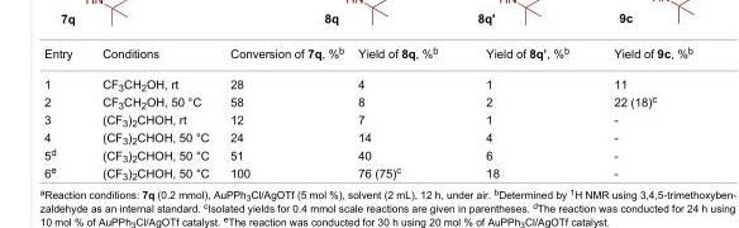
<table><tbody><tr><td>Entry</td><td>Conditions</td><td>Conversion of 7q, %<sup>b</sup></td><td>Yield of 8q, %<sup>b</sup></td><td>Yield of 8q’, %<sup>b</sup></td><td>Yield of 9c, %<sup>b</sup></td></tr><tr><td>1</td><td>CF<sub>3</sub>CH<sub>2</sub>OH, rt</td><td>28</td><td>4</td><td>1</td><td>11</td></tr><tr><td>2</td><td>CF<sub>3</sub>CH<sub>2</sub>OH, 50 °C</td><td>58</td><td>8</td><td>2</td><td>22 (18)<sup>c</sup></td></tr><tr><td>3</td><td>(CF<sub>3</sub>)<sub>2</sub>CHOH, rt</td><td>12</td><td>7</td><td>1</td><td>-</td></tr><tr><td>4</td><td>(CF<sub>3</sub>)<sub>2</sub>CHOH, 50 °C</td><td>24</td><td>14</td><td>4</td><td>-</td></tr><tr><td>5<sup>d</sup></td><td>(CF<sub>3</sub>)<sub>2</sub>CHOH, 50 °C</td><td>51</td><td>40</td><td>6</td><td>-</td></tr><tr><td>6<sup>e</sup></td><td>(CF<sub>3</sub>)<sub>2</sub>CHOH, 50 °C</td><td>100</td><td>76 (75)<sup>c</sup></td><td>18</td><td>-</td></tr></tbody></table>